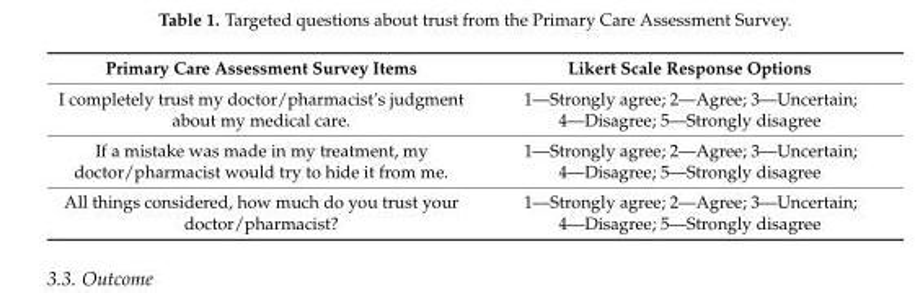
<table><thead><tr><td>Primary Care Assessment Survey Items</td><td>Likert Scale Response Options</td></tr></thead><tbody><tr><td>I completely trust my doctor/pharmacist’s judgment about my medical care.</td><td>1—Strongly agree; 2—Agree; 3—Uncertain; 4—Disagree; 5—Strongly disagree</td></tr><tr><td>If a mistake was made in my treatment, my doctor/pharmacist would try to hide it from me.</td><td>1—Strongly agree; 2—Agree; 3—Uncertain; 4—Disagree; 5—Strongly disagree</td></tr><tr><td>All things considered, how much do you trust your doctor/pharmacist?</td><td>1—Strongly agree; 2—Agree; 3—Uncertain; 4—Disagree; 5—Strongly disagree</td></tr></tbody></table>